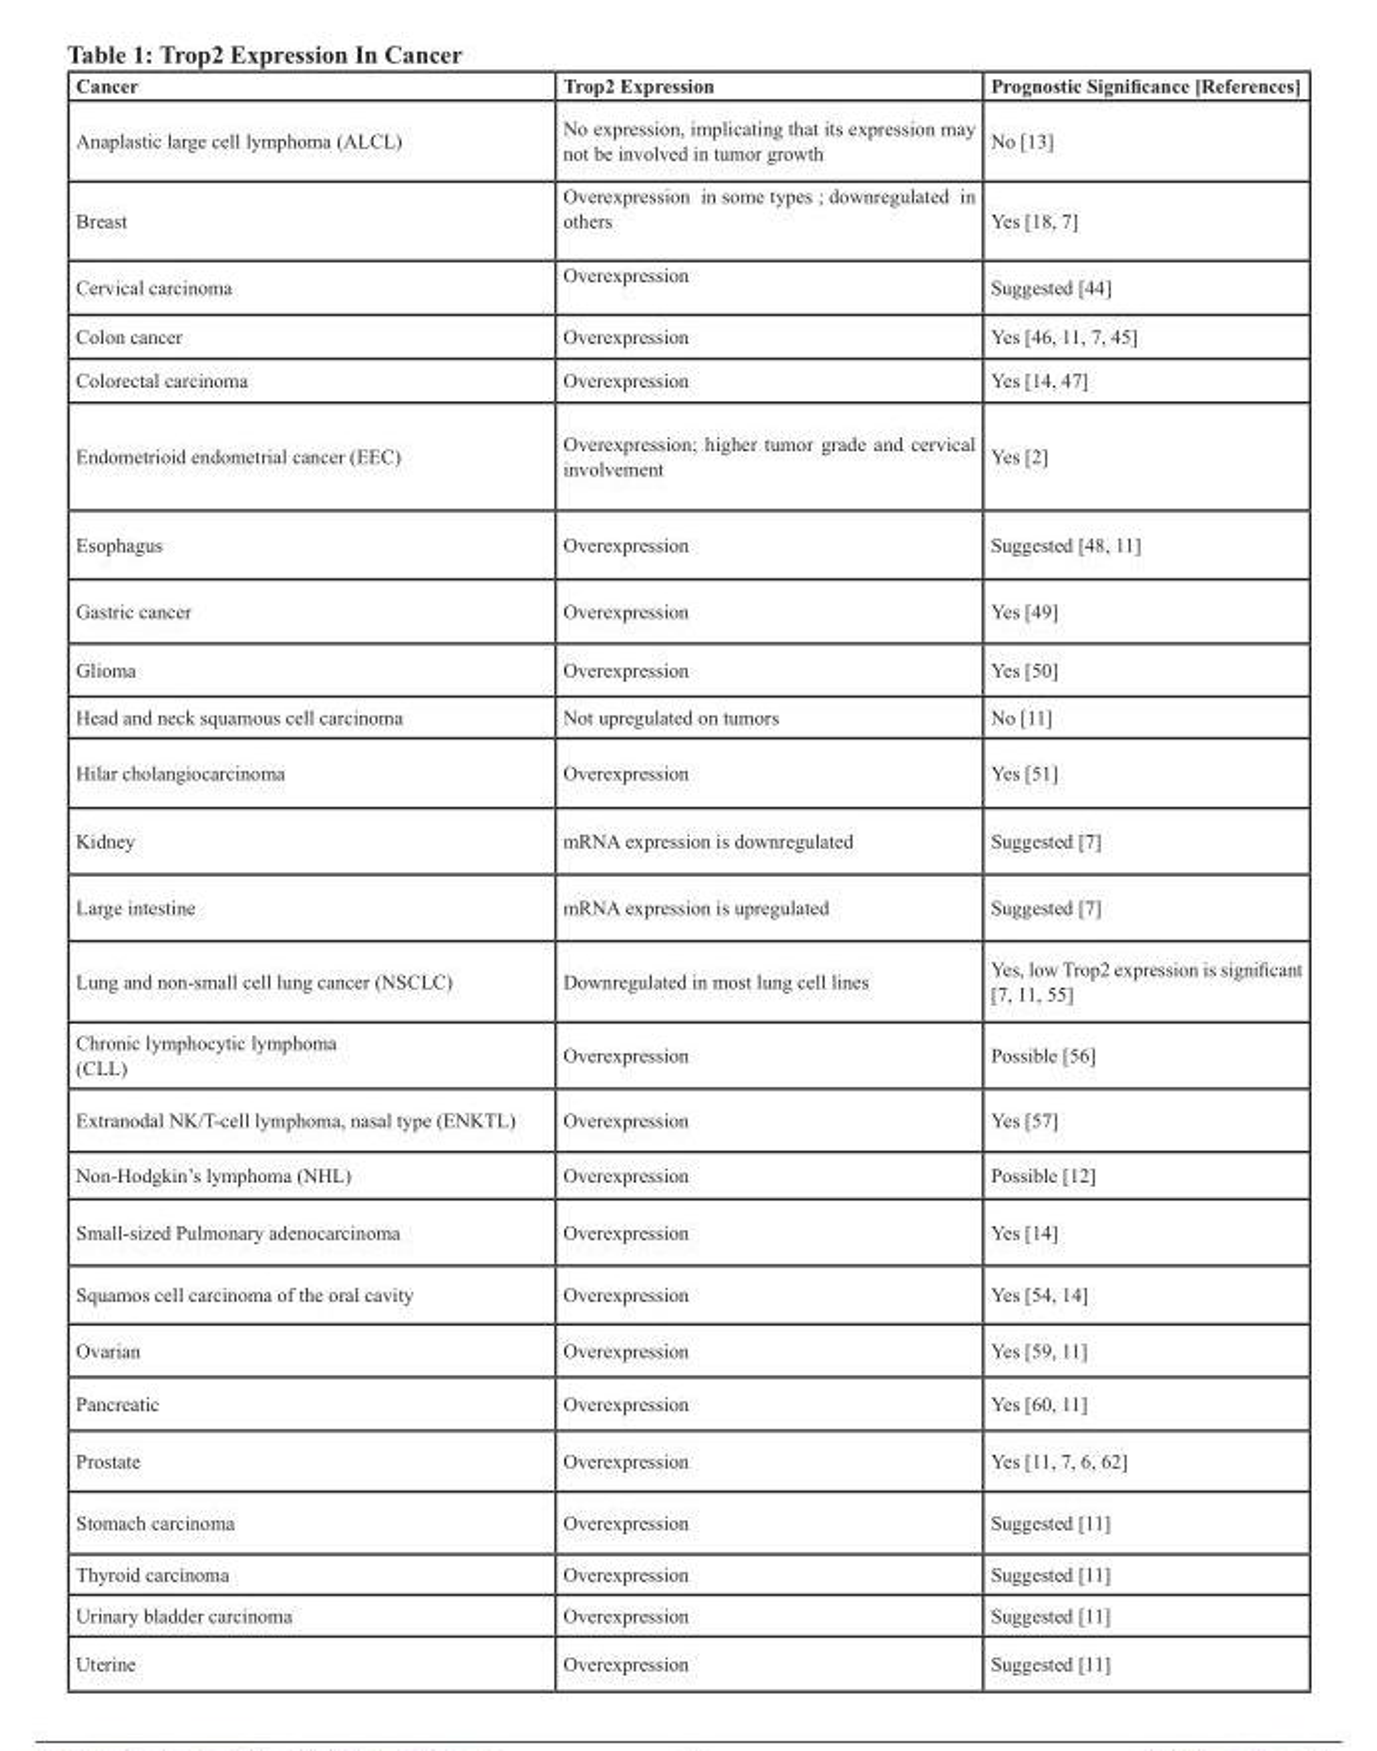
<table><thead><tr><td>Cancer</td><td>Trop2 Expression</td><td>Prognostic Significance [References]</td></tr></thead><tbody><tr><td>Anaplastic large cell lymphoma (ALCL)</td><td>No expression, implicating that its expression may not be involved in tumor growth</td><td>No [13]</td></tr><tr><td>Breast</td><td>Overexpression in some types ; downregulated in others</td><td>Yes [18, 7]</td></tr><tr><td>Cervical carcinoma</td><td>Overexpression</td><td>Suggested [44]</td></tr><tr><td>Colon cancer</td><td>Overexpression</td><td>Yes [46, 11, 7, 45]</td></tr><tr><td>Colorectal carcinoma</td><td>Overexpression</td><td>Yes [14, 47]</td></tr><tr><td>Endometrioid endometrial cancer (EEC)</td><td>Overexpression; higher tumor grade and cervical involvement</td><td>Yes [2]</td></tr><tr><td>Esophagus</td><td>Overexpression</td><td>Suggested [48, 11]</td></tr><tr><td>Gastric cancer</td><td>Overexpression</td><td>Yes [49]</td></tr><tr><td>Glioma</td><td>Overexpression</td><td>Yes [50]</td></tr><tr><td>Head and neck squamous cell carcinoma</td><td>Not upregulated on tumors</td><td>No [11]</td></tr><tr><td>Hilar cholangiocarcinoma</td><td>Overexpression</td><td>Yes [51]</td></tr><tr><td>Kidney</td><td>mRNA expression is downregulated</td><td>Suggested [7]</td></tr><tr><td>Large intestine</td><td>mRNA expression is upregulated</td><td>Suggested [7]</td></tr><tr><td>Lung and non-small cell lung cancer (NSCLC)</td><td>Downregulated in most lung cell lines</td><td>Yes, low Trop2 expression is significant [7, 11, 55]</td></tr><tr><td>Chronic lymphocytic lymphoma (CLL)</td><td>Overexpression</td><td>Possible [56]</td></tr><tr><td>Extranodal NK/T-cell lymphoma, nasal type (ENKTL)</td><td>Overexpression</td><td>Yes [57]</td></tr><tr><td>Non-Hodgkin’s lymphoma (NHL)</td><td>Overexpression</td><td>Possible [12]</td></tr><tr><td>Small-sized Pulmonary adenocarcinoma</td><td>Overexpression</td><td>Yes [14]</td></tr><tr><td>Squamos cell carcinoma of the oral cavity</td><td>Overexpression</td><td>Yes [54, 14]</td></tr><tr><td>Ovarian</td><td>Overexpression</td><td>Yes [59, 11]</td></tr><tr><td>Pancreatic</td><td>Overexpression</td><td>Yes [60, 11]</td></tr><tr><td>Prostate</td><td>Overexpression</td><td>Yes [11, 7, 6, 62]</td></tr><tr><td>Stomach carcinoma</td><td>Overexpression</td><td>Suggested [11]</td></tr><tr><td>Thyroid carcinoma</td><td>Overexpression</td><td>Suggested [11]</td></tr><tr><td>Urinary bladder carcinoma</td><td>Overexpression</td><td>Suggested [11]</td></tr><tr><td>Uterine</td><td>Overexpression</td><td>Suggested [11]</td></tr></tbody></table>